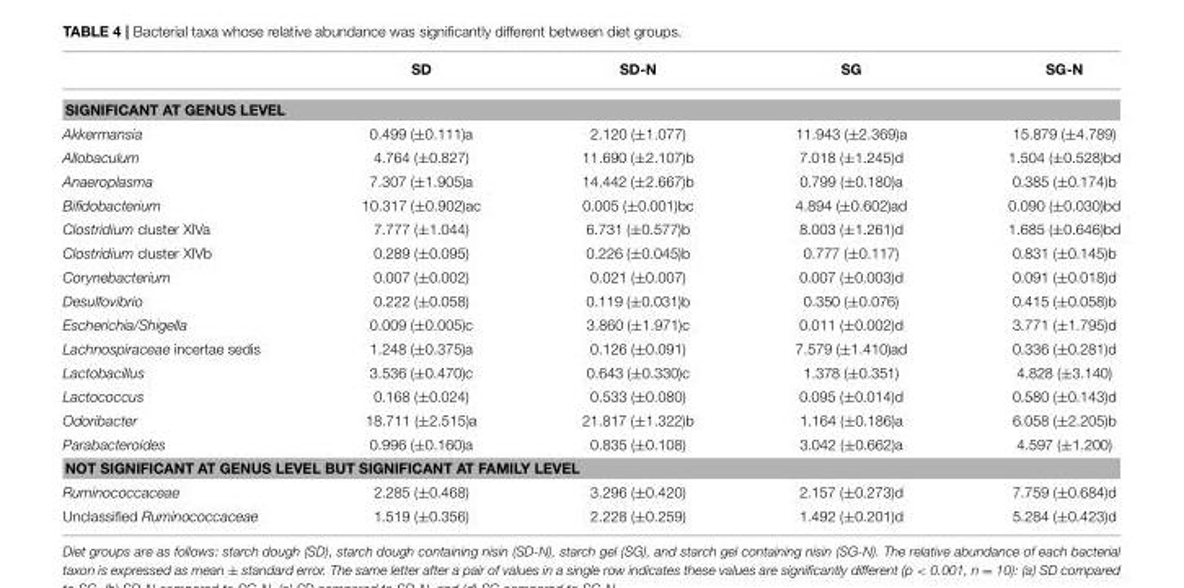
<table><thead><tr><td></td><td>SD</td><td>SD-N</td><td>SG</td><td>SG-N</td></tr></thead><tbody><tr><td colspan="5">SIGNIFICANT AT GENUS LEVEL</td></tr><tr><td>Akkermansia</td><td>0.499 (±0.111)a</td><td>2.120 (±1.077)</td><td>11.943 (±2.369)a</td><td>15.879 (±4.789)</td></tr><tr><td>Allobaculum</td><td>4.764 (±0.827)</td><td>11.690 (±2.107)b</td><td>7.018 (±1.245)d</td><td>1.504 (±0.528)bd</td></tr><tr><td>Anaeroplasma</td><td>7.307 (±1.905)a</td><td>14.442 (±2.667)b</td><td>0.799 (±0.180)a</td><td>0.385 (±0.174)b</td></tr><tr><td>Bifidobacterium</td><td>10.317 (±0.902)ac</td><td>0.005 (±0.001)bc</td><td>4.894 (±0.602)ad</td><td>0.090 (±0.030)bd</td></tr><tr><td>Clostridium cluster XIVa</td><td>7.777 (±1.044)</td><td>6.731 (±0.577)b</td><td>8.003 (±1.261)d</td><td>1.685 (±0.646)bd</td></tr><tr><td>Clostridium cluster XIVb</td><td>0.289 (±0.095)</td><td>0.226 (±0.045)b</td><td>0.777 (±0.117)</td><td>0.831 (±0.145)b</td></tr><tr><td>Corynebacterium</td><td>0.007 (±0.002)</td><td>0.021 (±0.007)</td><td>0.007 (±0.003)d</td><td>0.091 (±0.018)d</td></tr><tr><td>Desulfovibrio</td><td>0.222 (±0.058)</td><td>0.119 (±0.031)b</td><td>0.350 (±0.076)</td><td>0.415 (±0.058)b</td></tr><tr><td>Escherichia/Shigella</td><td>0.009 (±0.005)c</td><td>3.860 (±1.971)c</td><td>0.011 (±0.002)d</td><td>3.771 (±1.795)d</td></tr><tr><td>Lachnospiraceae incertae sedis</td><td>1.248 (±0.375)a</td><td>0.126 (±0.091)</td><td>7.579 (±1.410)ad</td><td>0.336 (±0.281)d</td></tr><tr><td>Lactobacillus</td><td>3.536 (±0.470)c</td><td>0.643 (±0.330)c</td><td>1.378 (±0.351)</td><td>4.828 (±3.140)</td></tr><tr><td>Lactococcus</td><td>0.168 (±0.024)</td><td>0.533 (±0.080)</td><td>0.095 (±0.014)d</td><td>0.580 (±0.143)d</td></tr><tr><td>Odoribacter</td><td>18.711 (±2.515)a</td><td>21.817 (±1.322)b</td><td>1.164 (±0.186)a</td><td>6.058 (±2.205)b</td></tr><tr><td>Parabacteroides</td><td>0.996 (±0.160)a</td><td>0.835 (±0.108)</td><td>3.042 (±0.662)a</td><td>4.597 (±1.200)</td></tr><tr><td colspan="5">NOT SIGNIFICANT AT GENUS LEVEL BUT SIGNIFICANT AT FAMILY LEVEL</td></tr><tr><td>Ruminococcaceae</td><td>2.285 (±0.468)</td><td>3.296 (±0.420)</td><td>2.157 (±0.273)d</td><td>7.759 (±0.684)d</td></tr><tr><td>Unclassified Ruminococcaceae</td><td>1.519 (±0.356)</td><td>2.228 (±0.259)</td><td>1.492 (±0.201)d</td><td>5.284 (±0.423)d</td></tr></tbody></table>